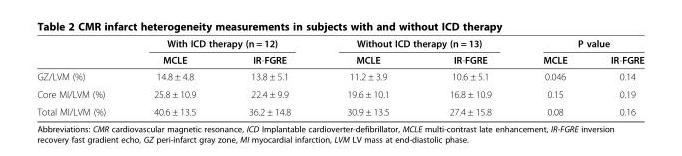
<table><thead><tr><td rowspan="2"></td><td colspan="2">With ICD therapy (n = 12)</td><td colspan="2">Without ICD therapy (n = 13)</td><td colspan="2">P value</td></tr><tr><td>MCLE</td><td>IR-FGRE</td><td>MCLE</td><td>IR-FGRE</td><td>MCLE</td><td>IR-FGRE</td></tr></thead><tbody><tr><td>GZ/LVM (%)</td><td>14.8 ± 4.8</td><td>13.8 ± 5.1</td><td>11.2 ± 3.9</td><td>10.6 ± 5.1</td><td>0.046</td><td>0.14</td></tr><tr><td>Core MI/LVM (%)</td><td>25.8 ± 10.9</td><td>22.4 ± 9.9</td><td>19.6 ± 10.1</td><td>16.8 ± 10.9</td><td>0.15</td><td>0.19</td></tr><tr><td>Total MI/LVM (%)</td><td>40.6 ± 13.5</td><td>36.2 ± 14.8</td><td>30.9 ± 13.5</td><td>27.4 ± 15.8</td><td>0.08</td><td>0.16</td></tr></tbody></table>